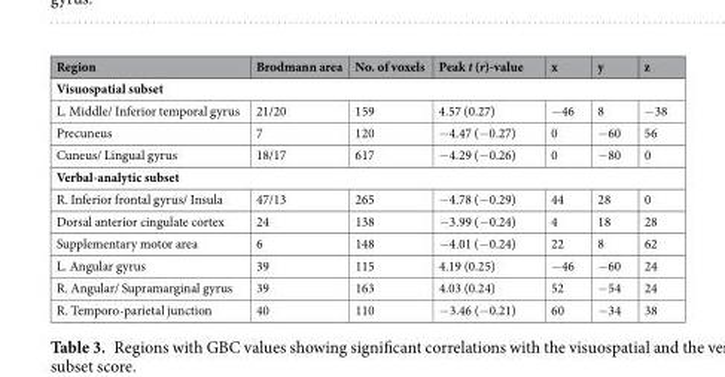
<table><thead><tr><td>Region</td><td>Brodmann area</td><td>No. of voxels</td><td>Peak t (r)-value</td><td>x</td><td>y</td><td>z</td></tr></thead><tbody><tr><td colspan="7">Visuospatial subset</td></tr><tr><td>L. Middle/ Inferior temporal gyrus</td><td>21/20</td><td>159</td><td>4.57 (0.27)</td><td>−46</td><td>8</td><td>−38</td></tr><tr><td>Precuneus</td><td>7</td><td>120</td><td>−4.47 (−0.27)</td><td>0</td><td>−60</td><td>56</td></tr><tr><td>Cuneus/ Lingual gyrus</td><td>18/17</td><td>617</td><td>−4.29 (−0.26)</td><td>0</td><td>−80</td><td>0</td></tr><tr><td colspan="7">Verbal-analytic subset</td></tr><tr><td>R. Inferior frontal gyrus/ Insula</td><td>47/13</td><td>265</td><td>−4.78 (−0.29)</td><td>44</td><td>28</td><td>0</td></tr><tr><td>Dorsal anterior cingulate cortex</td><td>24</td><td>138</td><td>−3.99 (−0.24)</td><td>4</td><td>18</td><td>28</td></tr><tr><td>Supplementary motor area</td><td>6</td><td>148</td><td>−4.01 (−0.24)</td><td>22</td><td>8</td><td>62</td></tr><tr><td>L. Angular gyrus</td><td>39</td><td>115</td><td>4.19 (0.25)</td><td>−46</td><td>−60</td><td>24</td></tr><tr><td>R. Angular/ Supramarginal gyrus</td><td>39</td><td>163</td><td>4.03 (0.24)</td><td>52</td><td>−54</td><td>24</td></tr><tr><td>R. Temporo-parietal junction</td><td>40</td><td>110</td><td>−3.46 (−0.21)</td><td>60</td><td>−34</td><td>38</td></tr></tbody></table>